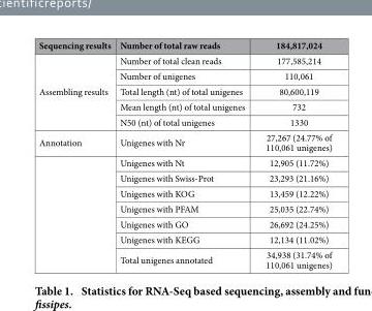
<table><thead><tr><td>Sequencing results</td><td>Number of total raw reads</td><td>184,817,024</td></tr></thead><tbody><tr><td rowspan="5">Assembling results</td><td>Number of total clean reads</td><td>177,585,214</td></tr><tr><td>Number of unigenes</td><td>110,061</td></tr><tr><td>Total length (nt) of total unigenes</td><td>80,600,119</td></tr><tr><td>Mean length (nt) of total unigenes</td><td>732</td></tr><tr><td>N50 (nt) of total unigenes</td><td>1330</td></tr><tr><td rowspan="8">Annotation</td><td>Unigenes with Nr</td><td>27,267 (24.77% of 110,061 unigenes)</td></tr><tr><td>Unigenes with Nt</td><td>12,905 (11.72%)</td></tr><tr><td>Unigenes with Swiss-Prot</td><td>23,293 (21.16%)</td></tr><tr><td>Unigenes with KOG</td><td>13,459 (12.22%)</td></tr><tr><td>Unigenes with PFAM</td><td>25,035 (22.74%)</td></tr><tr><td>Unigenes with GO</td><td>26,692 (24.25%)</td></tr><tr><td>Unigenes with KEGG</td><td>12,134 (11.02%)</td></tr><tr><td>Total unigenes annotated</td><td>34,938 (31.74% of 110,061 unigenes)</td></tr></tbody></table>